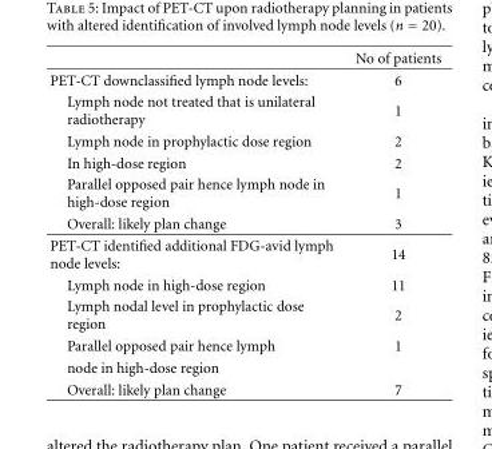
<table><thead><tr><td></td><td>No of patients</td></tr></thead><tbody><tr><td>PET-CT downclassified lymph node levels:</td><td>6</td></tr><tr><td>Lymph node not treated that is unilateral radiotherapy</td><td>1</td></tr><tr><td>Lymph node in prophylactic dose region</td><td>2</td></tr><tr><td>In high-dose region</td><td>2</td></tr><tr><td>Parallel opposed pair hence lymph node in high-dose region</td><td>1</td></tr><tr><td>Overall: likely plan change</td><td>3</td></tr><tr><td>PET-CT identified additional FDG-avid lymph node levels:</td><td>14</td></tr><tr><td>Lymph node in high-dose region</td><td>11</td></tr><tr><td>Lymph nodal level in prophylactic dose region</td><td>2</td></tr><tr><td>Parallel opposed pair hence lymph</td><td>1</td></tr><tr><td colspan="2">node in high-dose region</td></tr><tr><td>Overall: likely plan change</td><td>7</td></tr></tbody></table>